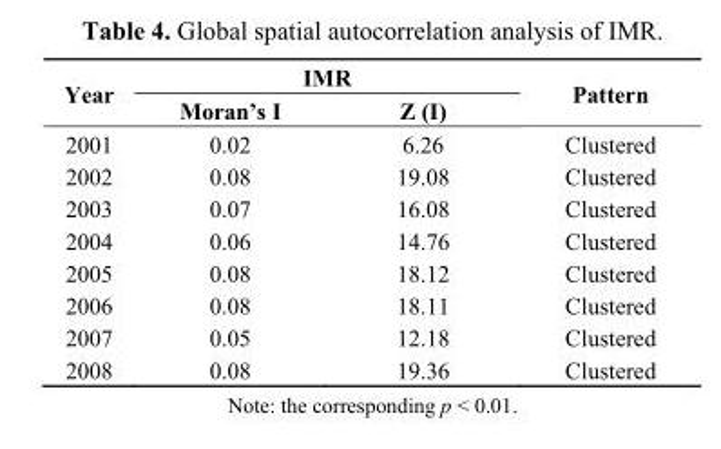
<table><thead><tr><td rowspan="2">Year</td><td colspan="2">IMR</td><td rowspan="2">Pattern</td></tr><tr><td>Moran’s I</td><td>Z (I)</td></tr></thead><tbody><tr><td>2001</td><td>0.02</td><td>6.26</td><td>Clustered</td></tr><tr><td>2002</td><td>0.08</td><td>19.08</td><td>Clustered</td></tr><tr><td>2003</td><td>0.07</td><td>16.08</td><td>Clustered</td></tr><tr><td>2004</td><td>0.06</td><td>14.76</td><td>Clustered</td></tr><tr><td>2005</td><td>0.08</td><td>18.12</td><td>Clustered</td></tr><tr><td>2006</td><td>0.08</td><td>18.11</td><td>Clustered</td></tr><tr><td>2007</td><td>0.05</td><td>12.18</td><td>Clustered</td></tr><tr><td>2008</td><td>0.08</td><td>19.36</td><td>Clustered</td></tr></tbody></table>